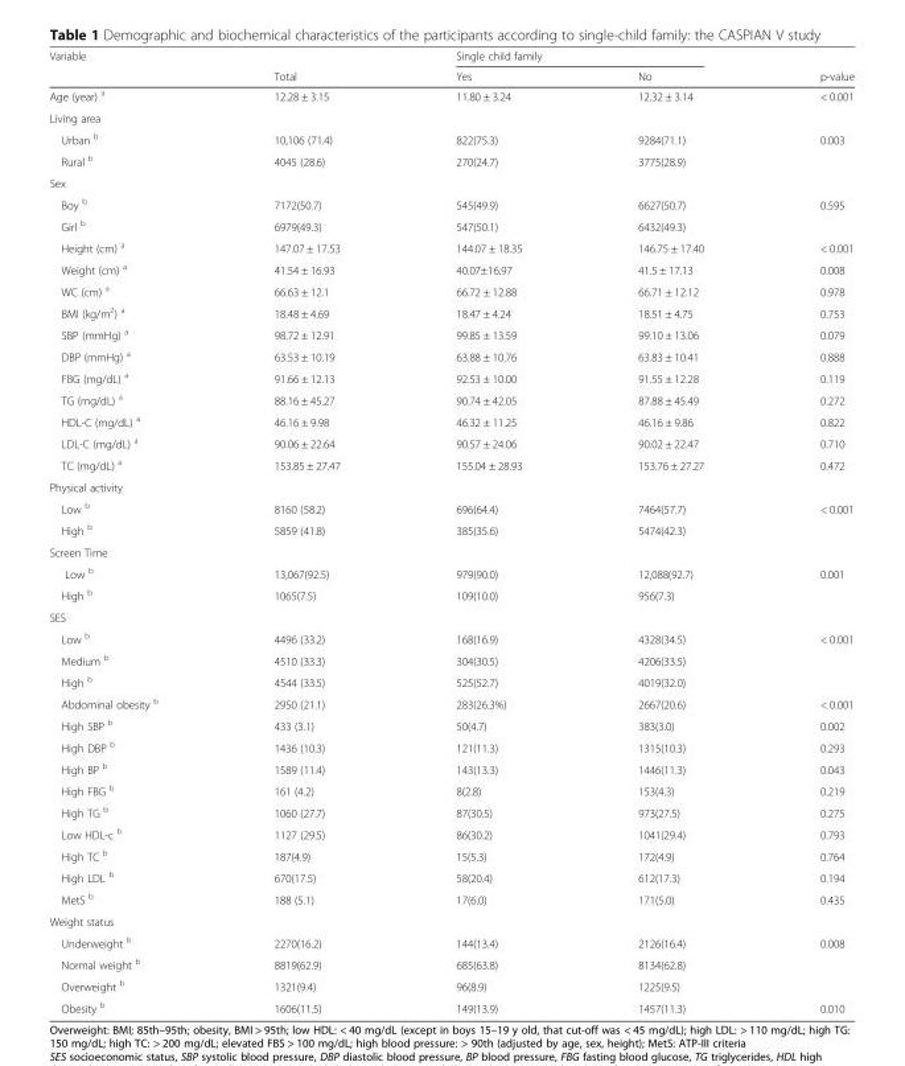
<table><thead><tr><td rowspan="2">Variable</td><td rowspan="2">Total</td><td colspan="2">Single child family</td><td rowspan="2">p-value</td></tr><tr><td>Yes</td><td>No</td></tr></thead><tbody><tr><td>Age (year) <sup>a</sup></td><td>12.28 ± 3.15</td><td>11.80 ± 3.24</td><td>12.32 ± 3.14</td><td>&lt; 0.001</td></tr><tr><td colspan="5">Living area</td></tr><tr><td>Urban <sup>b</sup></td><td>10,106 (71.4)</td><td>822(75.3)</td><td>9284(71.1)</td><td rowspan="2">0.003</td></tr><tr><td>Rural <sup>b</sup></td><td>4045 (28.6)</td><td>270(24.7)</td><td>3775(28.9)</td></tr><tr><td colspan="5">Sex</td></tr><tr><td>Boy <sup>b</sup></td><td>7172(50.7)</td><td>545(49.9)</td><td>6627(50.7)</td><td rowspan="2">0.595</td></tr><tr><td>Girl <sup>b</sup></td><td>6979(49.3)</td><td>547(50.1)</td><td>6432(49.3)</td></tr><tr><td>Height (cm) <sup>a</sup></td><td>147.07 ± 17.53</td><td>144.07 ± 18.35</td><td>146.75 ± 17.40</td><td>&lt; 0.001</td></tr><tr><td>Weight (cm) <sup>a</sup></td><td>41.54 ± 16.93</td><td>40.07±16.97</td><td>41.5 ± 17.13</td><td>0.008</td></tr><tr><td>WC (cm) <sup>a</sup></td><td>66.63 ± 12.1</td><td>66.72 ± 12.88</td><td>66.71 ± 12.12</td><td>0.978</td></tr><tr><td>BMI (kg/m<sup>2</sup>) <sup>a</sup></td><td>18.48 ± 4.69</td><td>18.47 ± 4.24</td><td>18.51 ± 4.75</td><td>0.753</td></tr><tr><td>SBP (mmHg) <sup>a</sup></td><td>98.72 ± 12.91</td><td>99.85 ± 13.59</td><td>99.10 ± 13.06</td><td>0.079</td></tr><tr><td>DBP (mmHg) <sup>a</sup></td><td>63.53 ± 10.19</td><td>63.88 ± 10.76</td><td>63.83 ± 10.41</td><td>0.888</td></tr><tr><td>FBG (mg/dL) <sup>a</sup></td><td>91.66 ± 12.13</td><td>92.53 ± 10.00</td><td>91.55 ± 12.28</td><td>0.119</td></tr><tr><td>TG (mg/dL) <sup>a</sup></td><td>88.16 ± 45.27</td><td>90.74 ± 42.05</td><td>87.88 ± 45.49</td><td>0.272</td></tr><tr><td>HDL-C (mg/dL) <sup>a</sup></td><td>46.16 ± 9.98</td><td>46.32 ± 11.25</td><td>46.16 ± 9.86</td><td>0.822</td></tr><tr><td>LDL-C (mg/dL) <sup>a</sup></td><td>90.06 ± 22.64</td><td>90.57 ± 24.06</td><td>90.02 ± 22.47</td><td>0.710</td></tr><tr><td>TC (mg/dL) <sup>a</sup></td><td>153.85 ± 27.47</td><td>155.04 ± 28.93</td><td>153.76 ± 27.27</td><td>0.472</td></tr><tr><td colspan="5">Physical activity</td></tr><tr><td>Low <sup>b</sup></td><td>8160 (58.2)</td><td>696(64.4)</td><td>7464(57.7)</td><td rowspan="2">&lt; 0.001</td></tr><tr><td>High <sup>b</sup></td><td>5859 (41.8)</td><td>385(35.6)</td><td>5474(42.3)</td></tr><tr><td colspan="5">Screen Time</td></tr><tr><td>Low <sup>b</sup></td><td>13,067(92.5)</td><td>979(90.0)</td><td>12,088(92.7)</td><td rowspan="2">0.001</td></tr><tr><td>High <sup>b</sup></td><td>1065(7.5)</td><td>109(10.0)</td><td>956(7.3)</td></tr><tr><td colspan="5">SES</td></tr><tr><td>Low <sup>b</sup></td><td>4496 (33.2)</td><td>168(16.9)</td><td>4328(34.5)</td><td rowspan="3">&lt; 0.001</td></tr><tr><td>Medium <sup>b</sup></td><td>4510 (33.3)</td><td>304(30.5)</td><td>4206(33.5)</td></tr><tr><td>High <sup>b</sup></td><td>4544 (33.5)</td><td>525(52.7)</td><td>4019(32.0)</td></tr><tr><td>Abdominal obesity <sup>b</sup></td><td>2950 (21.1)</td><td>283(26.3%)</td><td>2667(20.6)</td><td>&lt; 0.001</td></tr><tr><td>High SBP <sup>b</sup></td><td>433 (3.1)</td><td>50(4.7)</td><td>383(3.0)</td><td>0.002</td></tr><tr><td>High DBP <sup>b</sup></td><td>1436 (10.3)</td><td>121(11.3)</td><td>1315(10.3)</td><td>0.293</td></tr><tr><td>High BP <sup>b</sup></td><td>1589 (11.4)</td><td>143(13.3)</td><td>1446(11.3)</td><td>0.043</td></tr><tr><td>High FBG <sup>b</sup></td><td>161 (4.2)</td><td>8(2.8)</td><td>153(4.3)</td><td>0.219</td></tr><tr><td>High TG <sup>b</sup></td><td>1060 (27.7)</td><td>87(30.5)</td><td>973(27.5)</td><td>0.275</td></tr><tr><td>Low HDL-c <sup>b</sup></td><td>1127 (29.5)</td><td>86(30.2)</td><td>1041(29.4)</td><td>0.793</td></tr><tr><td>High TC <sup>b</sup></td><td>187(4.9)</td><td>15(5.3)</td><td>172(4.9)</td><td>0.764</td></tr><tr><td>High LDL <sup>b</sup></td><td>670(17.5)</td><td>58(20.4)</td><td>612(17.3)</td><td>0.194</td></tr><tr><td>MetS <sup>b</sup></td><td>188 (5.1)</td><td>17(6.0)</td><td>171(5.0)</td><td>0.435</td></tr><tr><td colspan="5">Weight status</td></tr><tr><td>Underweight <sup>b</sup></td><td>2270(16.2)</td><td>144(13.4)</td><td>2126(16.4)</td><td rowspan="3">0.008</td></tr><tr><td>Normal weight <sup>b</sup></td><td>8819(62.9)</td><td>685(63.8)</td><td>8134(62.8)</td></tr><tr><td>Overweight <sup>b</sup></td><td>1321(9.4)</td><td>96(8.9)</td><td>1225(9.5)</td></tr><tr><td>Obesity <sup>b</sup></td><td>1606(11.5)</td><td>149(13.9)</td><td>1457(11.3)</td><td>0.010</td></tr></tbody></table>